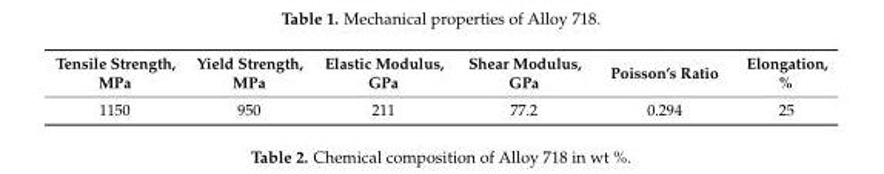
<table><thead><tr><td>Tensile Strength, MPa</td><td>Yield Strength, MPa</td><td>Elastic Modulus, GPa</td><td>Shear Modulus, GPa</td><td>Poisson’s Ratio</td><td>Elongation, %</td></tr></thead><tbody><tr><td>1150</td><td>950</td><td>211</td><td>77.2</td><td>0.294</td><td>25</td></tr></tbody></table>